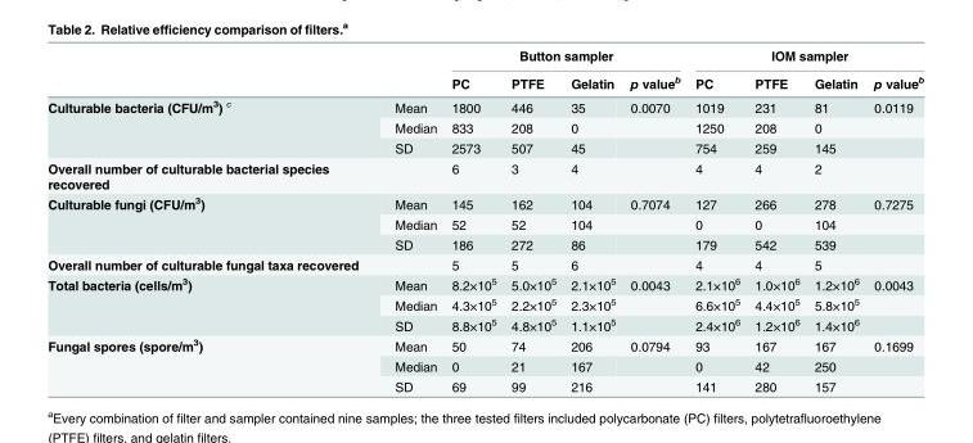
<table><thead><tr><td rowspan="2"></td><td rowspan="2"></td><td colspan="4">Button sampler</td><td colspan="4">IOM sampler</td></tr><tr><td>PC</td><td>PTFE</td><td>Gelatin</td><td>p value<sup>b</sup></td><td>PC</td><td>PTFE</td><td>Gelatin</td><td>p value<sup>b</sup></td></tr></thead><tbody><tr><td rowspan="3">Culturable bacteria (CFU/m<sup>3</sup>) <sup>c</sup></td><td>Mean</td><td>1800</td><td>446</td><td>35</td><td>0.0070</td><td>1019</td><td>231</td><td>81</td><td>0.0119</td></tr><tr><td>Median</td><td>833</td><td>208</td><td>0</td><td></td><td>1250</td><td>208</td><td>0</td><td></td></tr><tr><td>SD</td><td>2573</td><td>507</td><td>45</td><td></td><td>754</td><td>259</td><td>145</td><td></td></tr><tr><td>Overall number of culturable bacterial species recovered</td><td></td><td>6</td><td>3</td><td>4</td><td></td><td>4</td><td>4</td><td>2</td><td></td></tr><tr><td rowspan="3">Culturable fungi (CFU/m<sup>3</sup>)</td><td>Mean</td><td>145</td><td>162</td><td>104</td><td>0.7074</td><td>127</td><td>266</td><td>278</td><td>0.7275</td></tr><tr><td>Median</td><td>52</td><td>52</td><td>104</td><td></td><td>0</td><td>0</td><td>104</td><td></td></tr><tr><td>SD</td><td>186</td><td>272</td><td>86</td><td></td><td>179</td><td>542</td><td>539</td><td></td></tr><tr><td>Overall number of culturable fungal taxa recovered</td><td></td><td>5</td><td>5</td><td>6</td><td></td><td>4</td><td>4</td><td>5</td><td></td></tr><tr><td rowspan="3">Total bacteria (cells/m<sup>3</sup>)</td><td>Mean</td><td>8.2×10<sup>5</sup></td><td>5.0×10<sup>5</sup></td><td>2.1×10<sup>5</sup></td><td>0.0043</td><td>2.1×10<sup>6</sup></td><td>1.0×10<sup>6</sup></td><td>1.2×10<sup>6</sup></td><td>0.0043</td></tr><tr><td>Median</td><td>4.3×10<sup>5</sup></td><td>2.2×10<sup>5</sup></td><td>2.3×10<sup>5</sup></td><td></td><td>6.6×10<sup>5</sup></td><td>4.4×10<sup>5</sup></td><td>5.8×10<sup>5</sup></td><td></td></tr><tr><td>SD</td><td>8.8×10<sup>5</sup></td><td>4.8×10<sup>5</sup></td><td>1.1×10<sup>5</sup></td><td></td><td>2.4×10<sup>6</sup></td><td>1.2×10<sup>6</sup></td><td>1.4×10<sup>6</sup></td><td></td></tr><tr><td rowspan="3">Fungal spores (spore/m<sup>3</sup>)</td><td>Mean</td><td>50</td><td>74</td><td>206</td><td>0.0794</td><td>93</td><td>167</td><td>167</td><td>0.1699</td></tr><tr><td>Median</td><td>0</td><td>21</td><td>167</td><td></td><td>0</td><td>42</td><td>250</td><td></td></tr><tr><td>SD</td><td>69</td><td>99</td><td>216</td><td></td><td>141</td><td>280</td><td>157</td><td></td></tr></tbody></table>